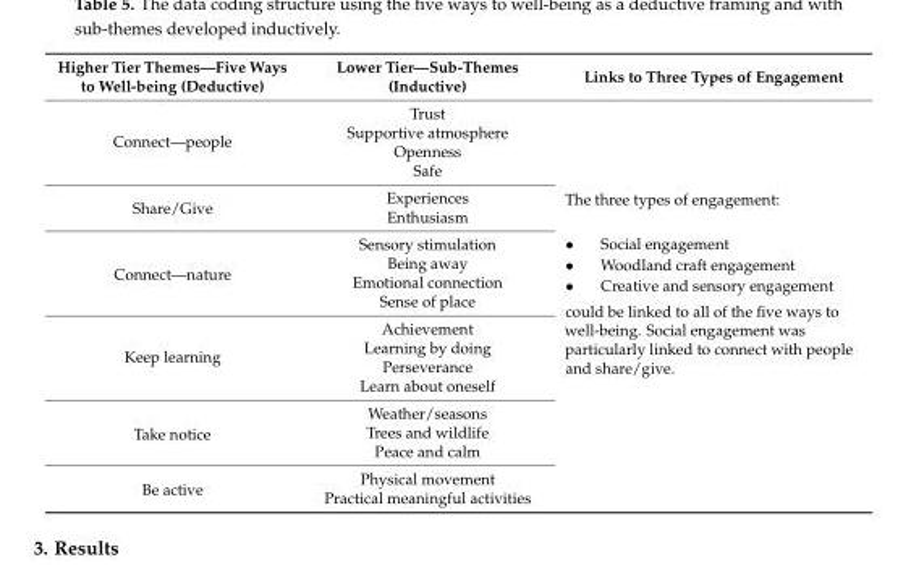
<table><thead><tr><td>Higher Tier Themes—Five Ways to Well-being (Deductive)</td><td>Lower Tier—Sub-Themes (Inductive)</td><td>Links to Three Types of Engagement</td></tr></thead><tbody><tr><td rowspan="4">Connect—people</td><td>Trust</td><td rowspan="19">The three types of engagement: • Social engagement • Woodland craft engagement • Creative and sensory engagement could be linked to all of the five ways to well-being. Social engagement was particularly linked to connect with people and share/give.</td></tr><tr><td>Supportive atmosphere</td></tr><tr><td>Openness</td></tr><tr><td>Safe</td></tr><tr><td rowspan="2">Share/Give</td><td>Experiences</td></tr><tr><td>Enthusiasm</td></tr><tr><td rowspan="4">Connect—nature</td><td>Sensory stimulation</td></tr><tr><td>Being away</td></tr><tr><td>Emotional connection</td></tr><tr><td>Sense of place</td></tr><tr><td rowspan="4">Keep learning</td><td>Achievement</td></tr><tr><td>Learning by doing</td></tr><tr><td>Perseverance</td></tr><tr><td>Learn about oneself</td></tr><tr><td rowspan="3">Take notice</td><td>Weather/seasons</td></tr><tr><td>Trees and wildlife</td></tr><tr><td>Peace and calm</td></tr><tr><td rowspan="2">Be active</td><td>Physical movement</td></tr><tr><td>Practical meaningful activities</td></tr></tbody></table>